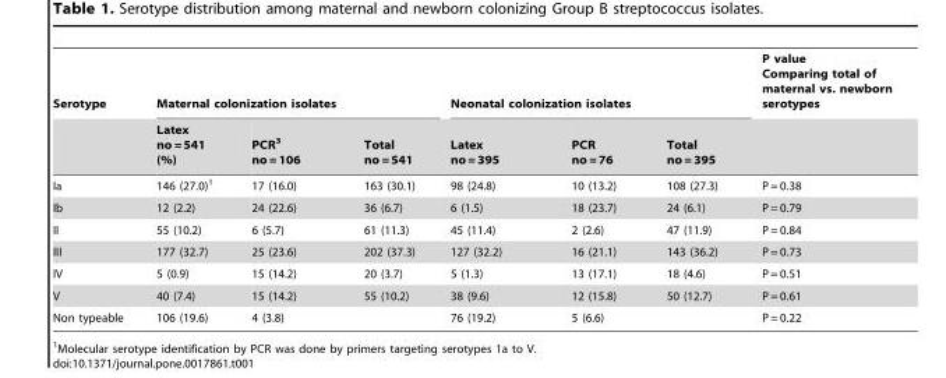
<table><thead><tr><td rowspan="2">Serotype</td><td colspan="3">Maternal colonization isolates</td><td colspan="3">Neonatal colonization isolates</td><td rowspan="2">P value Comparing total of maternal vs. newborn serotypes</td></tr><tr><td>Latex no = 541 (%)</td><td>PCR<sup>3</sup> no = 106</td><td>Total no = 541</td><td>Latex no = 395</td><td>PCR no = 76</td><td>Total no = 395</td></tr></thead><tbody><tr><td>Ia</td><td>146 (27.0)<sup>1</sup></td><td>17 (16.0)</td><td>163 (30.1)</td><td>98 (24.8)</td><td>10 (13.2)</td><td>108 (27.3)</td><td>P = 0.38</td></tr><tr><td>Ib</td><td>12 (2.2)</td><td>24 (22.6)</td><td>36 (6.7)</td><td>6 (1.5)</td><td>18 (23.7)</td><td>24 (6.1)</td><td>P = 0.79</td></tr><tr><td>II</td><td>55 (10.2)</td><td>6 (5.7)</td><td>61 (11.3)</td><td>45 (11.4)</td><td>2 (2.6)</td><td>47 (11.9)</td><td>P = 0.84</td></tr><tr><td>III</td><td>177 (32.7)</td><td>25 (23.6)</td><td>202 (37.3)</td><td>127 (32.2)</td><td>16 (21.1)</td><td>143 (36.2)</td><td>P = 0.73</td></tr><tr><td>IV</td><td>5 (0.9)</td><td>15 (14.2)</td><td>20 (3.7)</td><td>5 (1.3)</td><td>13 (17.1)</td><td>18 (4.6)</td><td>P = 0.51</td></tr><tr><td>V</td><td>40 (7.4)</td><td>15 (14.2)</td><td>55 (10.2)</td><td>38 (9.6)</td><td>12 (15.8)</td><td>50 (12.7)</td><td>P = 0.61</td></tr><tr><td>Non typeable</td><td>106 (19.6)</td><td>4 (3.8)</td><td></td><td>76 (19.2)</td><td>5 (6.6)</td><td></td><td>P = 0.22</td></tr></tbody></table>